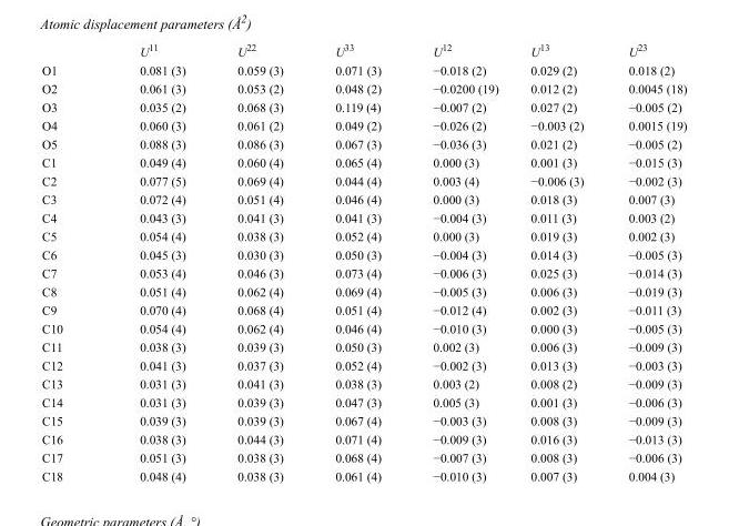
<table><thead><tr><td></td><td>U<sup>11</sup></td><td>U<sup>22</sup></td><td>U<sup>33</sup></td><td>U<sup>12</sup></td><td>U<sup>13</sup></td><td>U<sup>23</sup></td></tr></thead><tbody><tr><td>O1</td><td>0.081 (3)</td><td>0.059 (3)</td><td>0.071 (3)</td><td>−0.018 (2)</td><td>0.029 (2)</td><td>0.018 (2)</td></tr><tr><td>O2</td><td>0.061 (3)</td><td>0.053 (2)</td><td>0.048 (2)</td><td>−0.0200 (19)</td><td>0.012 (2)</td><td>0.0045 (18)</td></tr><tr><td>O3</td><td>0.035 (2)</td><td>0.068 (3)</td><td>0.119 (4)</td><td>−0.007 (2)</td><td>0.027 (2)</td><td>−0.005 (2)</td></tr><tr><td>O4</td><td>0.060 (3)</td><td>0.061 (2)</td><td>0.049 (2)</td><td>−0.026 (2)</td><td>−0.003 (2)</td><td>0.0015 (19)</td></tr><tr><td>O5</td><td>0.088 (3)</td><td>0.086 (3)</td><td>0.067 (3)</td><td>−0.036 (3)</td><td>0.021 (2)</td><td>−0.005 (2)</td></tr><tr><td>C1</td><td>0.049 (4)</td><td>0.060 (4)</td><td>0.065 (4)</td><td>0.000 (3)</td><td>0.001 (3)</td><td>−0.015 (3)</td></tr><tr><td>C2</td><td>0.077 (5)</td><td>0.069 (4)</td><td>0.044 (4)</td><td>0.003 (4)</td><td>−0.006 (3)</td><td>−0.002 (3)</td></tr><tr><td>C3</td><td>0.072 (4)</td><td>0.051 (4)</td><td>0.046 (4)</td><td>0.000 (3)</td><td>0.018 (3)</td><td>0.007 (3)</td></tr><tr><td>C4</td><td>0.043 (3)</td><td>0.041 (3)</td><td>0.041 (3)</td><td>−0.004 (3)</td><td>0.011 (3)</td><td>0.003 (2)</td></tr><tr><td>C5</td><td>0.054 (4)</td><td>0.038 (3)</td><td>0.052 (4)</td><td>0.000 (3)</td><td>0.019 (3)</td><td>0.002 (3)</td></tr><tr><td>C6</td><td>0.045 (3)</td><td>0.030 (3)</td><td>0.050 (3)</td><td>−0.004 (3)</td><td>0.014 (3)</td><td>−0.005 (3)</td></tr><tr><td>C7</td><td>0.053 (4)</td><td>0.046 (3)</td><td>0.073 (4)</td><td>−0.006 (3)</td><td>0.025 (3)</td><td>−0.014 (3)</td></tr><tr><td>C8</td><td>0.051 (4)</td><td>0.062 (4)</td><td>0.069 (4)</td><td>−0.005 (3)</td><td>0.006 (3)</td><td>−0.019 (3)</td></tr><tr><td>C9</td><td>0.070 (4)</td><td>0.068 (4)</td><td>0.051 (4)</td><td>−0.012 (4)</td><td>0.002 (3)</td><td>−0.011 (3)</td></tr><tr><td>C10</td><td>0.054 (4)</td><td>0.062 (4)</td><td>0.046 (4)</td><td>−0.010 (3)</td><td>0.000 (3)</td><td>−0.005 (3)</td></tr><tr><td>C11</td><td>0.038 (3)</td><td>0.039 (3)</td><td>0.050 (3)</td><td>0.002 (3)</td><td>0.006 (3)</td><td>−0.009 (3)</td></tr><tr><td>C12</td><td>0.041 (3)</td><td>0.037 (3)</td><td>0.052 (4)</td><td>−0.002 (3)</td><td>0.013 (3)</td><td>−0.003 (3)</td></tr><tr><td>C13</td><td>0.031 (3)</td><td>0.041 (3)</td><td>0.038 (3)</td><td>0.003 (2)</td><td>0.008 (2)</td><td>−0.009 (3)</td></tr><tr><td>C14</td><td>0.031 (3)</td><td>0.039 (3)</td><td>0.047 (3)</td><td>0.005 (3)</td><td>0.001 (3)</td><td>−0.006 (3)</td></tr><tr><td>C15</td><td>0.039 (3)</td><td>0.039 (3)</td><td>0.067 (4)</td><td>−0.003 (3)</td><td>0.008 (3)</td><td>−0.009 (3)</td></tr><tr><td>C16</td><td>0.038 (3)</td><td>0.044 (3)</td><td>0.071 (4)</td><td>−0.009 (3)</td><td>0.016 (3)</td><td>−0.013 (3)</td></tr><tr><td>C17</td><td>0.051 (3)</td><td>0.038 (3)</td><td>0.068 (4)</td><td>−0.007 (3)</td><td>0.008 (3)</td><td>−0.006 (3)</td></tr><tr><td>C18</td><td>0.048 (4)</td><td>0.038 (3)</td><td>0.061 (4)</td><td>−0.010 (3)</td><td>0.007 (3)</td><td>0.004 (3)</td></tr></tbody></table>